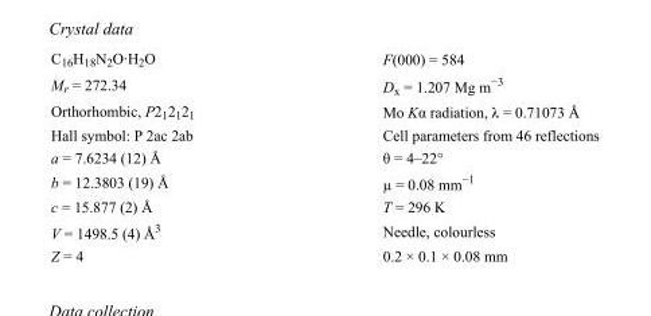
<table><tbody><tr><td>C<sub>16</sub>H<sub>18</sub>N<sub>2</sub>O·H<sub>2</sub>O</td><td>F(000) = 584</td></tr><tr><td>M<sub>r</sub> = 272.34</td><td>D<sub>x</sub> = 1.207 Mg m<sup>−3</sup></td></tr><tr><td>Orthorhombic, P2<sub>1</sub>2<sub>1</sub>2<sub>1</sub></td><td>Mo Kα radiation, λ = 0.71073 Å</td></tr><tr><td>Hall symbol: P 2ac 2ab</td><td>Cell parameters from 46 reflections</td></tr><tr><td>a = 7.6234 (12) Å</td><td>θ = 4–22°</td></tr><tr><td>b = 12.3803 (19) Å</td><td>µ = 0.08 mm<sup>−1</sup></td></tr><tr><td>c = 15.877 (2) Å</td><td>T = 296 K</td></tr><tr><td>V = 1498.5 (4) Å<sup>3</sup></td><td>Needle, colourless</td></tr><tr><td>Z = 4</td><td>0.2 × 0.1 × 0.08 mm</td></tr></tbody></table>